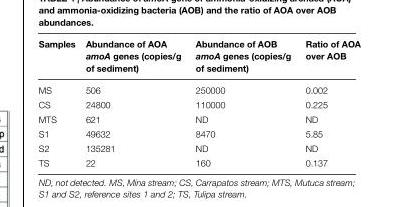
<table><thead><tr><td>Samples</td><td>Abundance of AOA amoA genes (copies/g of sediment)</td><td>Abundance of AOB amoA genes (copies/g of sediment)</td><td>Ratio of AOA over AOB</td></tr></thead><tbody><tr><td>MS</td><td>506</td><td>250000</td><td>0.002</td></tr><tr><td>CS</td><td>24800</td><td>110000</td><td>0.225</td></tr><tr><td>MTS</td><td>621</td><td>ND</td><td>ND</td></tr><tr><td>S1</td><td>49632</td><td>8470</td><td>5.85</td></tr><tr><td>S2</td><td>135281</td><td>ND</td><td>ND</td></tr><tr><td>TS</td><td>22</td><td>160</td><td>0.137</td></tr></tbody></table>